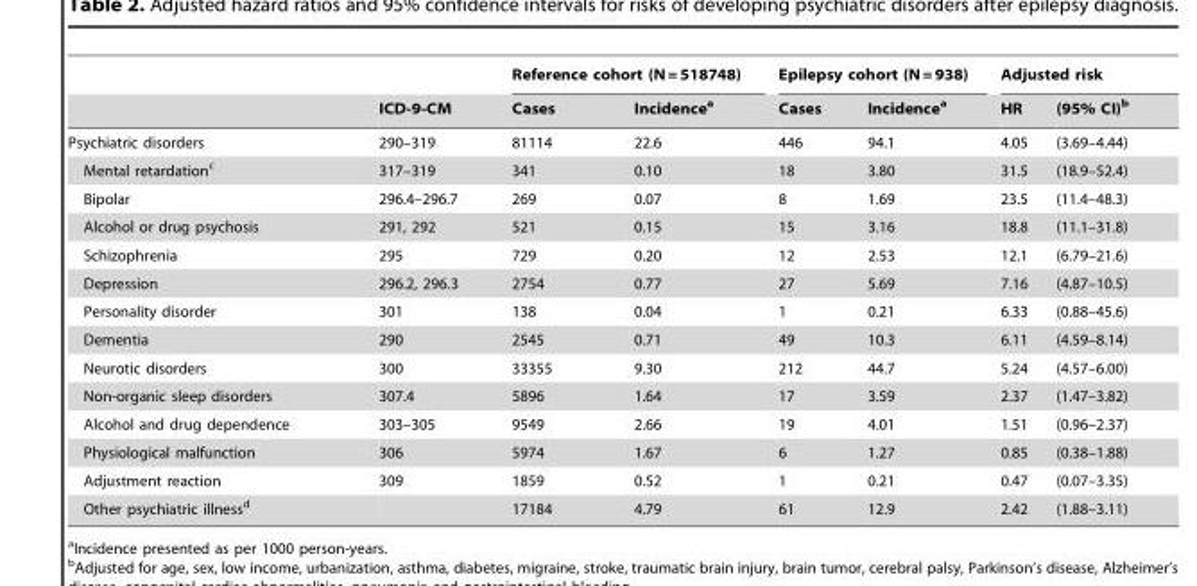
<table><thead><tr><td rowspan="2"></td><td rowspan="2">ICD-9-CM</td><td colspan="2">Reference cohort (N = 518748)</td><td colspan="2">Epilepsy cohort (N = 938)</td><td colspan="2">Adjusted risk</td></tr><tr><td>Cases</td><td>Incidence<sup>a</sup></td><td>Cases</td><td>Incidence<sup>a</sup></td><td>HR</td><td>(95% CI)<sup>b</sup></td></tr></thead><tbody><tr><td>Psychiatric disorders</td><td>290–319</td><td>81114</td><td>22.6</td><td>446</td><td>94.1</td><td>4.05</td><td>(3.69–4.44)</td></tr><tr><td>Mental retardation<sup>c</sup></td><td>317–319</td><td>341</td><td>0.10</td><td>18</td><td>3.80</td><td>31.5</td><td>(18.9–52.4)</td></tr><tr><td>Bipolar</td><td>296.4–296.7</td><td>269</td><td>0.07</td><td>8</td><td>1.69</td><td>23.5</td><td>(11.4–48.3)</td></tr><tr><td>Alcohol or drug psychosis</td><td>291, 292</td><td>521</td><td>0.15</td><td>15</td><td>3.16</td><td>18.8</td><td>(11.1–31.8)</td></tr><tr><td>Schizophrenia</td><td>295</td><td>729</td><td>0.20</td><td>12</td><td>2.53</td><td>12.1</td><td>(6.79–21.6)</td></tr><tr><td>Depression</td><td>296.2, 296.3</td><td>2754</td><td>0.77</td><td>27</td><td>5.69</td><td>7.16</td><td>(4.87–10.5)</td></tr><tr><td>Personality disorder</td><td>301</td><td>138</td><td>0.04</td><td>1</td><td>0.21</td><td>6.33</td><td>(0.88–45.6)</td></tr><tr><td>Dementia</td><td>290</td><td>2545</td><td>0.71</td><td>49</td><td>10.3</td><td>6.11</td><td>(4.59–8.14)</td></tr><tr><td>Neurotic disorders</td><td>300</td><td>33355</td><td>9.30</td><td>212</td><td>44.7</td><td>5.24</td><td>(4.57–6.00)</td></tr><tr><td>Non-organic sleep disorders</td><td>307.4</td><td>5896</td><td>1.64</td><td>17</td><td>3.59</td><td>2.37</td><td>(1.47–3.82)</td></tr><tr><td>Alcohol and drug dependence</td><td>303–305</td><td>9549</td><td>2.66</td><td>19</td><td>4.01</td><td>1.51</td><td>(0.96–2.37)</td></tr><tr><td>Physiological malfunction</td><td>306</td><td>5974</td><td>1.67</td><td>6</td><td>1.27</td><td>0.85</td><td>(0.38–1.88)</td></tr><tr><td>Adjustment reaction</td><td>309</td><td>1859</td><td>0.52</td><td>1</td><td>0.21</td><td>0.47</td><td>(0.07–3.35)</td></tr><tr><td>Other psychiatric illness<sup>d</sup></td><td></td><td>17184</td><td>4.79</td><td>61</td><td>12.9</td><td>2.42</td><td>(1.88–3.11)</td></tr></tbody></table>